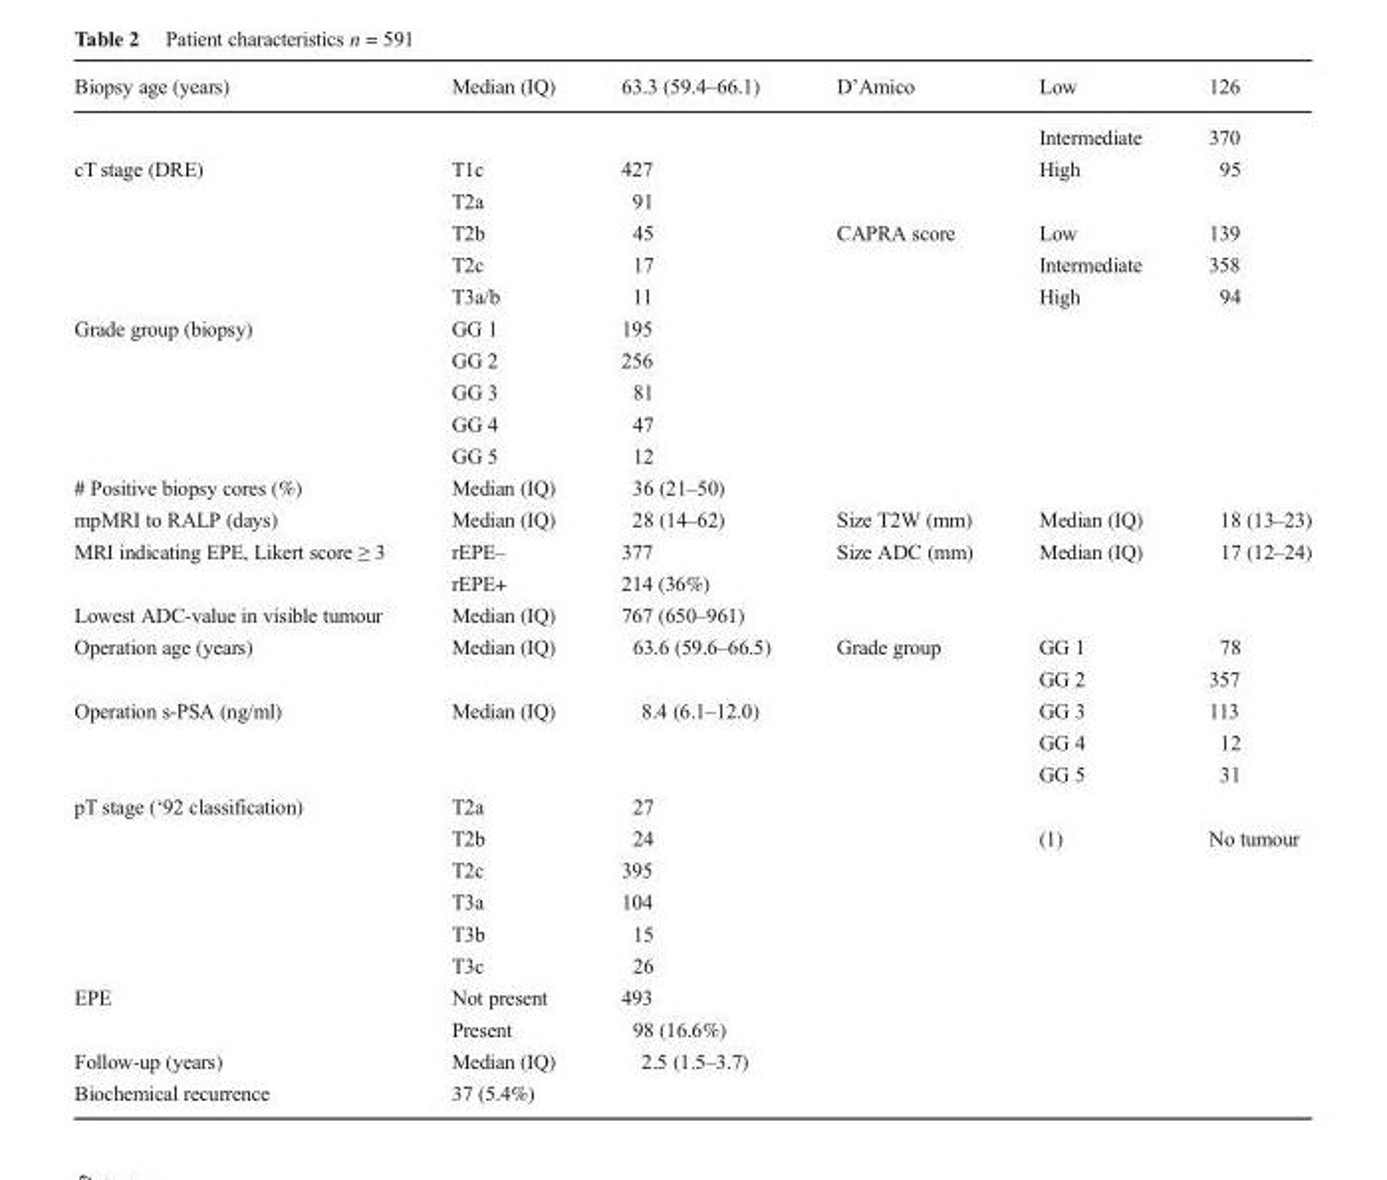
<table><thead><tr><td>Biopsy age (years)</td><td>Median (IQ)</td><td>63.3 (59.4–66.1)</td><td>D’Amico</td><td>Low</td><td>126</td></tr></thead><tbody><tr><td></td><td></td><td></td><td></td><td>Intermediate</td><td>370</td></tr><tr><td rowspan="5">cT stage (DRE)</td><td>T1c</td><td>427</td><td></td><td>High</td><td>95</td></tr><tr><td>T2a</td><td>91</td><td></td><td></td><td></td></tr><tr><td>T2b</td><td>45</td><td>CAPRA score</td><td>Low</td><td>139</td></tr><tr><td>T2c</td><td>17</td><td></td><td>Intermediate</td><td>358</td></tr><tr><td>T3a/b</td><td>11</td><td></td><td>High</td><td>94</td></tr><tr><td rowspan="5">Grade group (biopsy)</td><td>GG 1</td><td>195</td><td></td><td></td><td></td></tr><tr><td>GG 2</td><td>256</td><td></td><td></td><td></td></tr><tr><td>GG 3</td><td>81</td><td></td><td></td><td></td></tr><tr><td>GG 4</td><td>47</td><td></td><td></td><td></td></tr><tr><td>GG 5</td><td>12</td><td></td><td></td><td></td></tr><tr><td># Positive biopsy cores (%)</td><td>Median (IQ)</td><td>36 (21–50)</td><td></td><td></td><td></td></tr><tr><td>mpMRI to RALP (days)</td><td>Median (IQ)</td><td>28 (14–62)</td><td>Size T2W (mm)</td><td>Median (IQ)</td><td>18 (13–23)</td></tr><tr><td rowspan="2">MRI indicating EPE, Likert score ≥ 3</td><td>rEPE–</td><td>377</td><td>Size ADC (mm)</td><td>Median (IQ)</td><td>17 (12–24)</td></tr><tr><td>rEPE+</td><td>214 (36%)</td><td></td><td></td><td></td></tr><tr><td>Lowest ADC-value in visible tumour</td><td>Median (IQ)</td><td>767 (650–961)</td><td></td><td></td><td></td></tr><tr><td rowspan="2">Operation age (years)</td><td>Median (IQ)</td><td>63.6 (59.6–66.5)</td><td>Grade group</td><td>GG 1</td><td>78</td></tr><tr><td></td><td></td><td></td><td>GG 2</td><td>357</td></tr><tr><td rowspan="3">Operation s-PSA (ng/ml)</td><td>Median (IQ)</td><td>8.4 (6.1–12.0)</td><td></td><td>GG 3</td><td>113</td></tr><tr><td></td><td></td><td></td><td>GG 4</td><td>12</td></tr><tr><td></td><td></td><td></td><td>GG 5</td><td>31</td></tr><tr><td rowspan="6">pT stage (‘92 classification)</td><td>T2a</td><td>27</td><td></td><td></td><td></td></tr><tr><td>T2b</td><td>24</td><td></td><td>(1)</td><td>No tumour</td></tr><tr><td>T2c</td><td>395</td><td></td><td></td><td></td></tr><tr><td>T3a</td><td>104</td><td></td><td></td><td></td></tr><tr><td>T3b</td><td>15</td><td></td><td></td><td></td></tr><tr><td>T3c</td><td>26</td><td></td><td></td><td></td></tr><tr><td rowspan="2">EPE</td><td>Not present</td><td>493</td><td></td><td></td><td></td></tr><tr><td>Present</td><td>98 (16.6%)</td><td></td><td></td><td></td></tr><tr><td>Follow-up (years)</td><td>Median (IQ)</td><td>2.5 (1.5–3.7)</td><td></td><td></td><td></td></tr><tr><td>Biochemical recurrence</td><td>37 (5.4%)</td><td></td><td></td><td></td><td></td></tr></tbody></table>